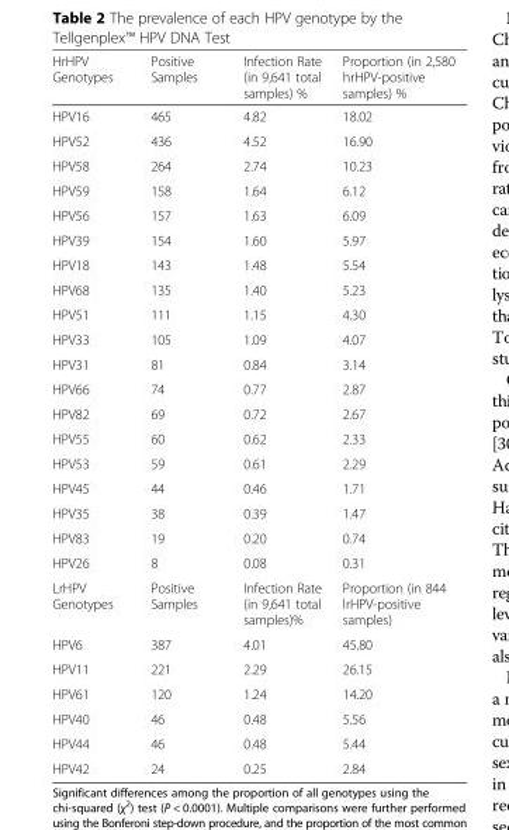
<table><thead><tr><td>HrHPV Genotypes</td><td>Positive Samples</td><td>Infection Rate (in 9,641 total samples) %</td><td>Proportion (in 2,580 hrHPV-positive samples) %</td></tr></thead><tbody><tr><td>HPV16</td><td>465</td><td>4.82</td><td>18.02</td></tr><tr><td>HPV52</td><td>436</td><td>4.52</td><td>16.90</td></tr><tr><td>HPV58</td><td>264</td><td>2.74</td><td>10.23</td></tr><tr><td>HPV59</td><td>158</td><td>1.64</td><td>6.12</td></tr><tr><td>HPV56</td><td>157</td><td>1.63</td><td>6.09</td></tr><tr><td>HPV39</td><td>154</td><td>1.60</td><td>5.97</td></tr><tr><td>HPV18</td><td>143</td><td>1.48</td><td>5.54</td></tr><tr><td>HPV68</td><td>135</td><td>1.40</td><td>5.23</td></tr><tr><td>HPV51</td><td>111</td><td>1.15</td><td>4.30</td></tr><tr><td>HPV33</td><td>105</td><td>1.09</td><td>4.07</td></tr><tr><td>HPV31</td><td>81</td><td>0.84</td><td>3.14</td></tr><tr><td>HPV66</td><td>74</td><td>0.77</td><td>2.87</td></tr><tr><td>HPV82</td><td>69</td><td>0.72</td><td>2.67</td></tr><tr><td>HPV55</td><td>60</td><td>0.62</td><td>2.33</td></tr><tr><td>HPV53</td><td>59</td><td>0.61</td><td>2.29</td></tr><tr><td>HPV45</td><td>44</td><td>0.46</td><td>1.71</td></tr><tr><td>HPV35</td><td>38</td><td>0.39</td><td>1.47</td></tr><tr><td>HPV83</td><td>19</td><td>0.20</td><td>0.74</td></tr><tr><td>HPV26</td><td>8</td><td>0.08</td><td>0.31</td></tr><tr><td>LrHPV Genotypes</td><td>Positive Samples</td><td>Infection Rate (in 9,641 total samples)%</td><td>Proportion (in 844 lrHPV-positive samples)</td></tr><tr><td>HPV6</td><td>387</td><td>4.01</td><td>45.80</td></tr><tr><td>HPV11</td><td>221</td><td>2.29</td><td>26.15</td></tr><tr><td>HPV61</td><td>120</td><td>1.24</td><td>14.20</td></tr><tr><td>HPV40</td><td>46</td><td>0.48</td><td>5.56</td></tr><tr><td>HPV44</td><td>46</td><td>0.48</td><td>5.44</td></tr><tr><td>HPV42</td><td>24</td><td>0.25</td><td>2.84</td></tr></tbody></table>